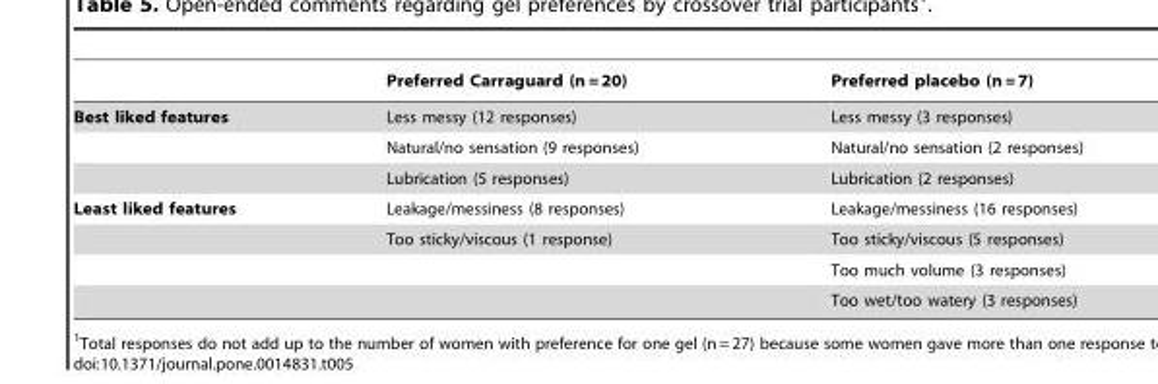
<table><thead><tr><td></td><td>Preferred Carraguard (n = 20)</td><td>Preferred placebo (n = 7)</td></tr></thead><tbody><tr><td rowspan="3">Best liked features</td><td>Less messy (12 responses)</td><td>Less messy (3 responses)</td></tr><tr><td>Natural/no sensation (9 responses)</td><td>Natural/no sensation (2 responses)</td></tr><tr><td>Lubrication (5 responses)</td><td>Lubrication (2 responses)</td></tr><tr><td rowspan="4">Least liked features</td><td>Leakage/messiness (8 responses)</td><td>Leakage/messiness (16 responses)</td></tr><tr><td>Too sticky/viscous (1 response)</td><td>Too sticky/viscous (5 responses)</td></tr><tr><td></td><td>Too much volume (3 responses)</td></tr><tr><td></td><td>Too wet/too watery (3 responses)</td></tr></tbody></table>